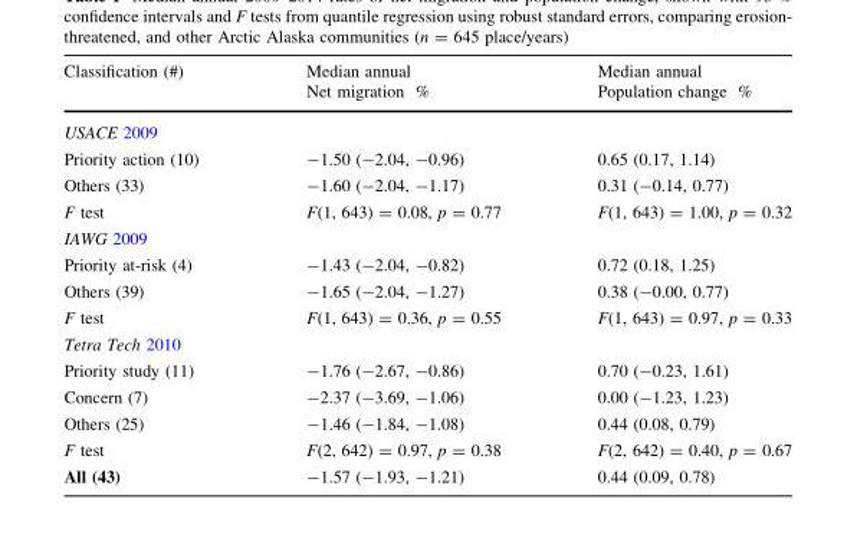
<table><thead><tr><td rowspan="2">Classification (#)</td><td rowspan="2">Median annual Net migration %</td><td rowspan="2">Median annual Population change %</td></tr><tr></tr></thead><tbody><tr><td colspan="3">USACE 2009</td></tr><tr><td>Priority action (10)</td><td>-1.50 (-2.04, -0.96)</td><td>0.65 (0.17, 1.14)</td></tr><tr><td>Others (33)</td><td>-1.60 (-2.04, -1.17)</td><td>0.31 (-0.14, 0.77)</td></tr><tr><td>F test</td><td>F(1, 643) = 0.08, p = 0.77</td><td>F(1, 643) = 1.00, p = 0.32</td></tr><tr><td colspan="3">IAWG 2009</td></tr><tr><td>Priority at-risk (4)</td><td>-1.43 (-2.04, -0.82)</td><td>0.72 (0.18, 1.25)</td></tr><tr><td>Others (39)</td><td>-1.65 (-2.04, -1.27)</td><td>0.38 (-0.00, 0.77)</td></tr><tr><td>F test</td><td>F(1, 643) = 0.36, p = 0.55</td><td>F(1, 643) = 0.97, p = 0.33</td></tr><tr><td colspan="3">Tetra Tech 2010</td></tr><tr><td>Priority study (11)</td><td>-1.76 (-2.67, -0.86)</td><td>0.70 (-0.23, 1.61)</td></tr><tr><td>Concern (7)</td><td>-2.37 (-3.69, -1.06)</td><td>0.00 (-1.23, 1.23)</td></tr><tr><td>Others (25)</td><td>-1.46 (-1.84, -1.08)</td><td>0.44 (0.08, 0.79)</td></tr><tr><td>F test</td><td>F(2, 642) = 0.97, p = 0.38</td><td>F(2, 642) = 0.40, p = 0.67</td></tr><tr><td>All (43)</td><td>-1.57 (-1.93, -1.21)</td><td>0.44 (0.09, 0.78)</td></tr></tbody></table>